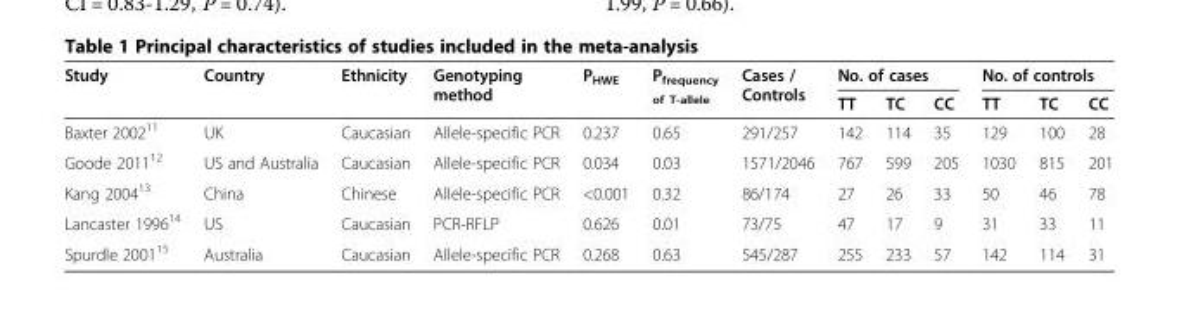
<table><thead><tr><td rowspan="2">Study</td><td rowspan="2">Country</td><td rowspan="2">Ethnicity</td><td rowspan="2">Genotyping method</td><td rowspan="2">P<sub>HWE</sub></td><td rowspan="2">P<sub>frequency of T-allele</sub></td><td rowspan="2">Cases / Controls</td><td colspan="3">No. of cases</td><td colspan="3">No. of controls</td></tr><tr><td>TT</td><td>TC</td><td>CC</td><td>TT</td><td>TC</td><td>CC</td></tr></thead><tbody><tr><td>Baxter 2002<sup>11</sup></td><td>UK</td><td>Caucasian</td><td>Allele-specific PCR</td><td>0.237</td><td>0.65</td><td>291/257</td><td>142</td><td>114</td><td>35</td><td>129</td><td>100</td><td>28</td></tr><tr><td>Goode 2011<sup>12</sup></td><td>US and Australia</td><td>Caucasian</td><td>Allele-specific PCR</td><td>0.034</td><td>0.03</td><td>1571/2046</td><td>767</td><td>599</td><td>205</td><td>1030</td><td>815</td><td>201</td></tr><tr><td>Kang 2004<sup>13</sup></td><td>China</td><td>Chinese</td><td>Allele-specific PCR</td><td>&lt;0.001</td><td>0.32</td><td>86/174</td><td>27</td><td>26</td><td>33</td><td>50</td><td>46</td><td>78</td></tr><tr><td>Lancaster 1996<sup>14</sup></td><td>US</td><td>Caucasian</td><td>PCR-RFLP</td><td>0.626</td><td>0.01</td><td>73/75</td><td>47</td><td>17</td><td>9</td><td>31</td><td>33</td><td>11</td></tr><tr><td>Spurdle 2001<sup>15</sup></td><td>Australia</td><td>Caucasian</td><td>Allele-specific PCR</td><td>0.268</td><td>0.63</td><td>545/287</td><td>255</td><td>233</td><td>57</td><td>142</td><td>114</td><td>31</td></tr></tbody></table>